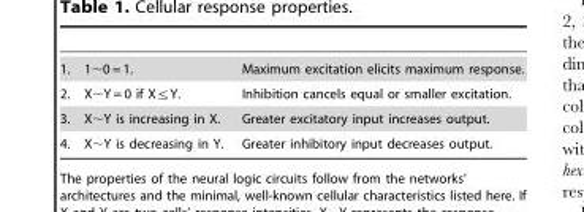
<table><tbody><tr><td>1. 1∼0 = 1.</td><td>Maximum excitation elicits maximum response.</td></tr><tr><td>2. X,Y = 0 if XƒY.</td><td>Inhibition cancels equal or smaller excitation.</td></tr><tr><td>3. X∼Y is increasing in X.</td><td>Greater excitatory input increases output.</td></tr><tr><td>4. X∼Y is decreasing in Y.</td><td>Greater inhibitory input decreases output.</td></tr></tbody></table>